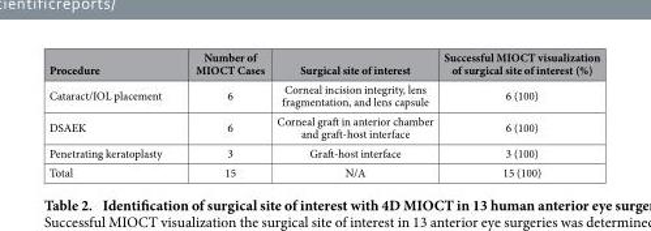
<table><thead><tr><td>Procedure</td><td>Number of MIOCT Cases</td><td>Surgical site of interest</td><td>Successful MIOCT visualization of surgical site of interest (%)</td></tr></thead><tbody><tr><td>Cataract/IOL placement</td><td>6</td><td>Corneal incision integrity, lens fragmentation, and lens capsule</td><td>6 (100)</td></tr><tr><td>DSAEK</td><td>6</td><td>Corneal graft in anterior chamber and graft-host interface</td><td>6 (100)</td></tr><tr><td>Penetrating keratoplasty</td><td>3</td><td>Graft-host interface</td><td>3 (100)</td></tr><tr><td>Total</td><td>15</td><td>N/A</td><td>15 (100)</td></tr></tbody></table>